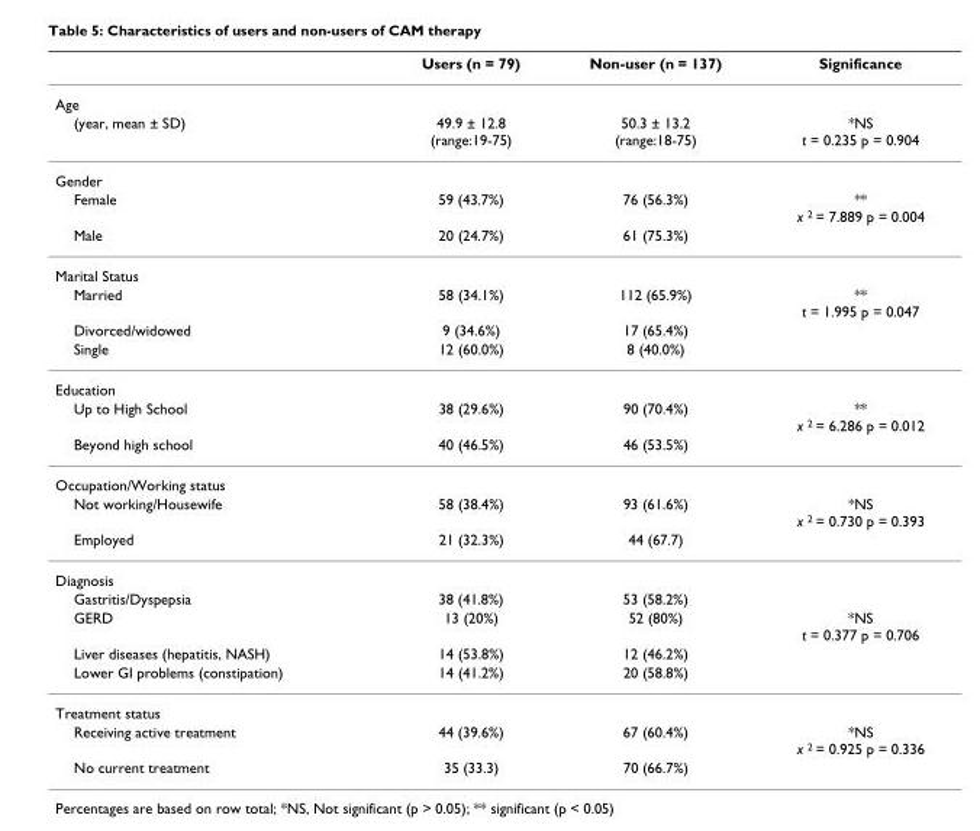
<table><thead><tr><td></td><td>Users (n = 79)</td><td>Non-user (n = 137)</td><td>Significance</td></tr></thead><tbody><tr><td colspan="4">Age</td></tr><tr><td>(year, mean ± SD)</td><td>49.9 ± 12.8 (range:19-75)</td><td>50.3 ± 13.2 (range:18-75)</td><td>*NS t = 0.235 p = 0.904</td></tr><tr><td colspan="4">Gender</td></tr><tr><td>Female</td><td>59 (43.7%)</td><td>76 (56.3%)</td><td>** x <sup>2</sup> = 7.889 p = 0.004</td></tr><tr><td>Male</td><td>20 (24.7%)</td><td>61 (75.3%)</td><td></td></tr><tr><td colspan="4">Marital Status</td></tr><tr><td>Married</td><td>58 (34.1%)</td><td>112 (65.9%)</td><td>** t = 1.995 p = 0.047</td></tr><tr><td>Divorced/widowed</td><td>9 (34.6%)</td><td>17 (65.4%)</td><td></td></tr><tr><td>Single</td><td>12 (60.0%)</td><td>8 (40.0%)</td><td></td></tr><tr><td colspan="4">Education</td></tr><tr><td>Up to High School</td><td>38 (29.6%)</td><td>90 (70.4%)</td><td>** x <sup>2</sup> = 6.286 p = 0.012</td></tr><tr><td>Beyond high school</td><td>40 (46.5%)</td><td>46 (53.5%)</td><td></td></tr><tr><td colspan="4">Occupation/Working status</td></tr><tr><td>Not working/Housewife</td><td>58 (38.4%)</td><td>93 (61.6%)</td><td>*NS x <sup>2</sup> = 0.730 p = 0.393</td></tr><tr><td>Employed</td><td>21 (32.3%)</td><td>44 (67.7)</td><td></td></tr><tr><td colspan="4">Diagnosis</td></tr><tr><td>Gastritis/Dyspepsia</td><td>38 (41.8%)</td><td>53 (58.2%)</td><td></td></tr><tr><td>GERD</td><td>13 (20%)</td><td>52 (80%)</td><td>*NS t = 0.377 p = 0.706</td></tr><tr><td>Liver diseases (hepatitis, NASH)</td><td>14 (53.8%)</td><td>12 (46.2%)</td><td></td></tr><tr><td>Lower GI problems (constipation)</td><td>14 (41.2%)</td><td>20 (58.8%)</td><td></td></tr><tr><td colspan="4">Treatment status</td></tr><tr><td>Receiving active treatment</td><td>44 (39.6%)</td><td>67 (60.4%)</td><td>*NS x <sup>2</sup> = 0.925 p = 0.336</td></tr><tr><td>No current treatment</td><td>35 (33.3)</td><td>70 (66.7%)</td><td></td></tr></tbody></table>